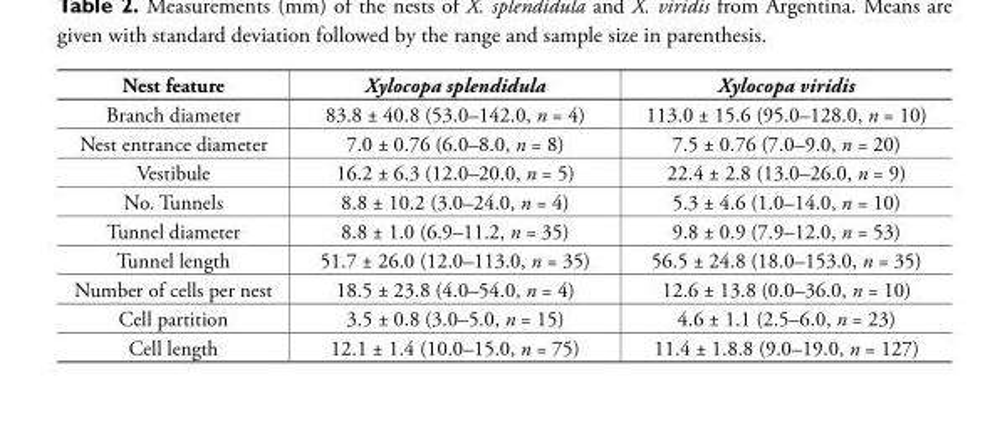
<table><thead><tr><td>Nest feature</td><td>Xylocopa splendidula</td><td>Xylocopa viridis</td></tr></thead><tbody><tr><td>Branch diameter</td><td>83.8 ± 40.8 (53.0–142.0, n = 4)</td><td>113.0 ± 15.6 (95.0–128.0, n = 10)</td></tr><tr><td>Nest entrance diameter</td><td>7.0 ± 0.76 (6.0–8.0, n = 8)</td><td>7.5 ± 0.76 (7.0–9.0, n = 20)</td></tr><tr><td>Vestibule</td><td>16.2 ± 6.3 (12.0–20.0, n = 5)</td><td>22.4 ± 2.8 (13.0–26.0, n = 9)</td></tr><tr><td>No. Tunnels</td><td>8.8 ± 10.2 (3.0–24.0, n = 4)</td><td>5.3 ± 4.6 (1.0–14.0, n = 10)</td></tr><tr><td>Tunnel diameter</td><td>8.8 ± 1.0 (6.9–11.2, n = 35)</td><td>9.8 ± 0.9 (7.9–12.0, n = 53)</td></tr><tr><td>Tunnel length</td><td>51.7 ± 26.0 (12.0–113.0, n = 35)</td><td>56.5 ± 24.8 (18.0–153.0, n = 35)</td></tr><tr><td>Number of cells per nest</td><td>18.5 ± 23.8 (4.0–54.0, n = 4)</td><td>12.6 ± 13.8 (0.0–36.0, n = 10)</td></tr><tr><td>Cell partition</td><td>3.5 ± 0.8 (3.0–5.0, n = 15)</td><td>4.6 ± 1.1 (2.5–6.0, n = 23)</td></tr><tr><td>Cell length</td><td>12.1 ± 1.4 (10.0–15.0, n = 75)</td><td>11.4 ± 1.8.8 (9.0–19.0, n = 127)</td></tr></tbody></table>